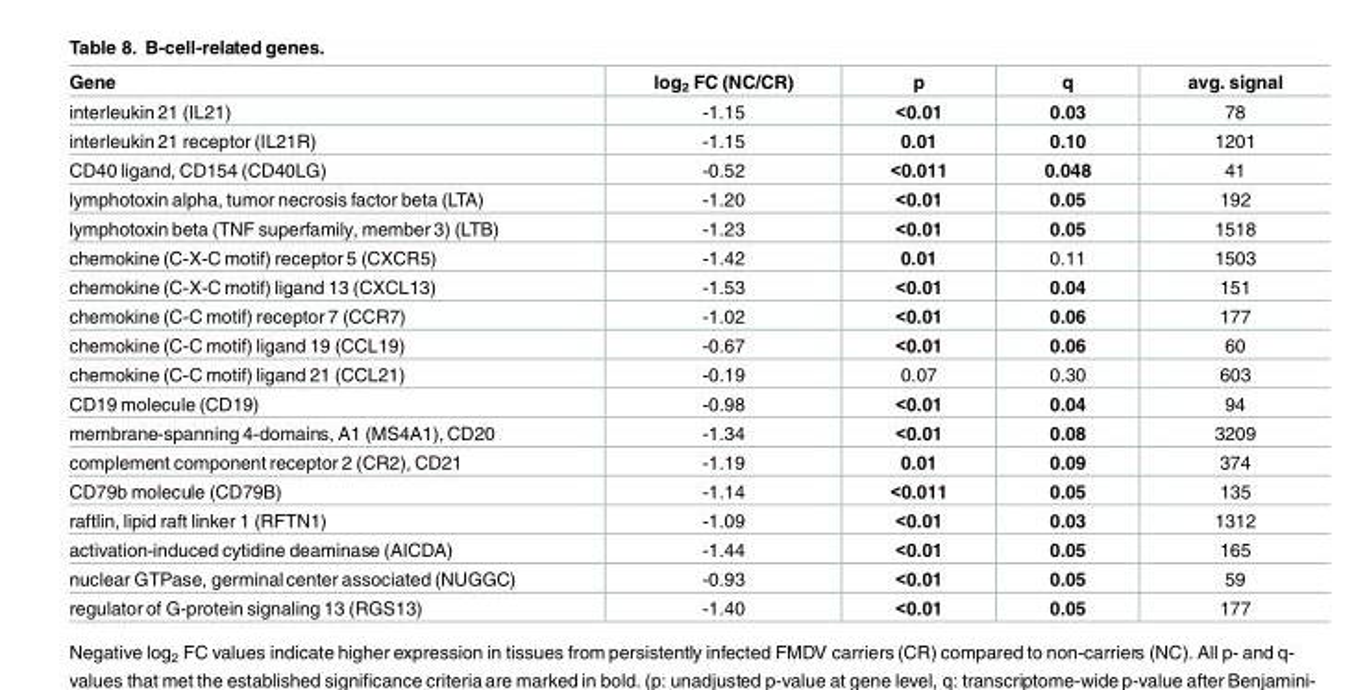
<table><thead><tr><td>Gene</td><td>log<sub>2</sub> FC (NC/CR)</td><td>p</td><td>q</td><td>avg. signal</td></tr></thead><tbody><tr><td>interleukin 21 (IL21)</td><td>-1.15</td><td>&lt;0.01</td><td>0.03</td><td>78</td></tr><tr><td>interleukin 21 receptor (IL21R)</td><td>-1.15</td><td>0.01</td><td>0.10</td><td>1201</td></tr><tr><td>CD40 ligand, CD154 (CD40LG)</td><td>-0.52</td><td>&lt;0.011</td><td>0.048</td><td>41</td></tr><tr><td>lymphotoxin alpha, tumor necrosis factor beta (LTA)</td><td>-1.20</td><td>&lt;0.01</td><td>0.05</td><td>192</td></tr><tr><td>lymphotoxin beta (TNF superfamily, member 3) (LTB)</td><td>-1.23</td><td>&lt;0.01</td><td>0.05</td><td>1518</td></tr><tr><td>chemokine (C-X-C motif) receptor 5 (CXCR5)</td><td>-1.42</td><td>0.01</td><td>0.11</td><td>1503</td></tr><tr><td>chemokine (C-X-C motif) ligand 13 (CXCL13)</td><td>-1.53</td><td>&lt;0.01</td><td>0.04</td><td>151</td></tr><tr><td>chemokine (C-C motif) receptor 7 (CCR7)</td><td>-1.02</td><td>&lt;0.01</td><td>0.06</td><td>177</td></tr><tr><td>chemokine (C-C motif) ligand 19 (CCL19)</td><td>-0.67</td><td>&lt;0.01</td><td>0.06</td><td>60</td></tr><tr><td>chemokine (C-C motif) ligand 21 (CCL21)</td><td>-0.19</td><td>0.07</td><td>0.30</td><td>603</td></tr><tr><td>CD19 molecule (CD19)</td><td>-0.98</td><td>&lt;0.01</td><td>0.04</td><td>94</td></tr><tr><td>membrane-spanning 4-domains, A1 (MS4A1), CD20</td><td>-1.34</td><td>&lt;0.01</td><td>0.08</td><td>3209</td></tr><tr><td>complement component receptor 2 (CR2), CD21</td><td>-1.19</td><td>0.01</td><td>0.09</td><td>374</td></tr><tr><td>CD79b molecule (CD79B)</td><td>-1.14</td><td>&lt;0.011</td><td>0.05</td><td>135</td></tr><tr><td>raftlin, lipid raft linker 1 (RFTN1)</td><td>-1.09</td><td>&lt;0.01</td><td>0.03</td><td>1312</td></tr><tr><td>activation-induced cytidine deaminase (AICDA)</td><td>-1.44</td><td>&lt;0.01</td><td>0.05</td><td>165</td></tr><tr><td>nuclear GTPase, germinal center associated (NUGGC)</td><td>-0.93</td><td>&lt;0.01</td><td>0.05</td><td>59</td></tr><tr><td>regulator of G-protein signaling 13 (RGS13)</td><td>-1.40</td><td>&lt;0.01</td><td>0.05</td><td>177</td></tr></tbody></table>